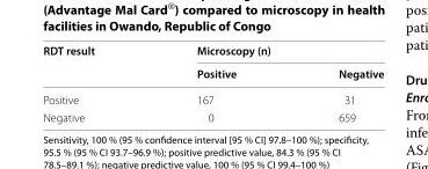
<table><thead><tr><td rowspan="2">RDT result</td><td colspan="2">Microscopy (n)</td></tr><tr><td>Positive</td><td>Negative</td></tr></thead><tbody><tr><td>Positive</td><td>167</td><td>31</td></tr><tr><td>Negative</td><td>0</td><td>659</td></tr></tbody></table>